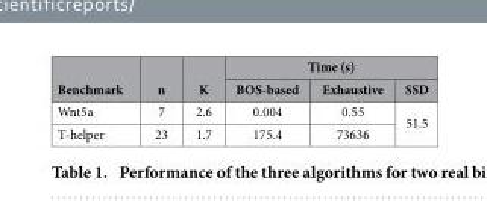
<table><thead><tr><td rowspan="2">Benchmark</td><td rowspan="2">n</td><td rowspan="2">K</td><td colspan="3">Time (s)</td></tr><tr><td>BOS-based</td><td>Exhaustive</td><td>SSD</td></tr></thead><tbody><tr><td>Wnt5a</td><td>7</td><td>2.6</td><td>0.004</td><td>0.55</td><td rowspan="2">51.5</td></tr><tr><td>T-helper</td><td>23</td><td>1.7</td><td>175.4</td><td>73636</td></tr></tbody></table>